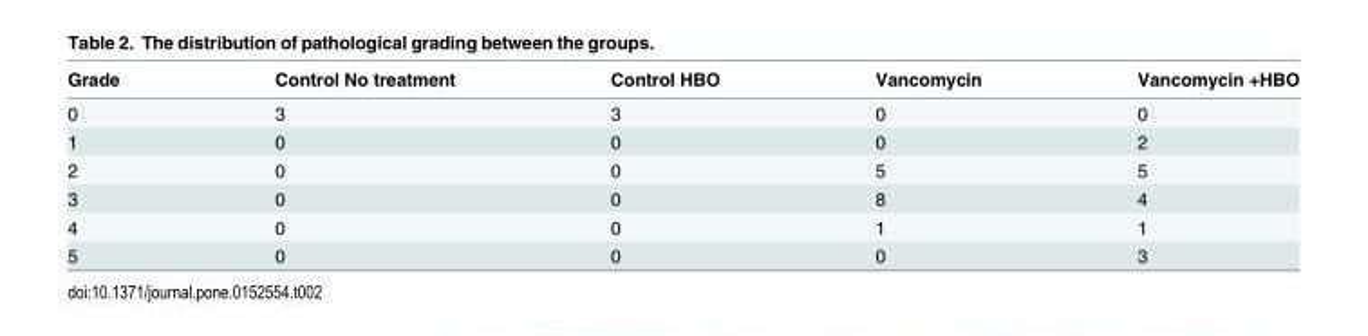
<table><thead><tr><td>Grade</td><td>Control No treatment</td><td>Control HBO</td><td>Vancomycin</td><td>Vancomycin +HBO</td></tr></thead><tbody><tr><td>0</td><td>3</td><td>3</td><td>0</td><td>0</td></tr><tr><td>1</td><td>0</td><td>0</td><td>0</td><td>2</td></tr><tr><td>2</td><td>0</td><td>0</td><td>5</td><td>5</td></tr><tr><td>3</td><td>0</td><td>0</td><td>8</td><td>4</td></tr><tr><td>4</td><td>0</td><td>0</td><td>1</td><td>1</td></tr><tr><td>5</td><td>0</td><td>0</td><td>0</td><td>3</td></tr></tbody></table>